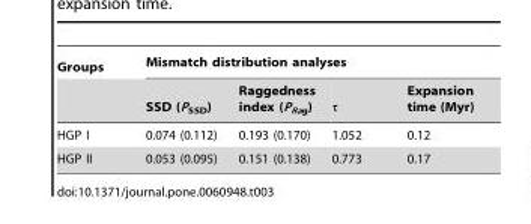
<table><thead><tr><td rowspan="2">Groups</td><td colspan="4">Mismatch distribution analyses</td></tr><tr><td>SSD (P<sub>SSD</sub>)</td><td>Raggedness index (P<sub>Rag</sub>)</td><td>τ</td><td>Expansion time (Myr)</td></tr></thead><tbody><tr><td>HGP I</td><td>0.074 (0.112)</td><td>0.193 (0.170)</td><td>1.052</td><td>0.12</td></tr><tr><td>HGP II</td><td>0.053 (0.095)</td><td>0.151 (0.138)</td><td>0.773</td><td>0.17</td></tr></tbody></table>